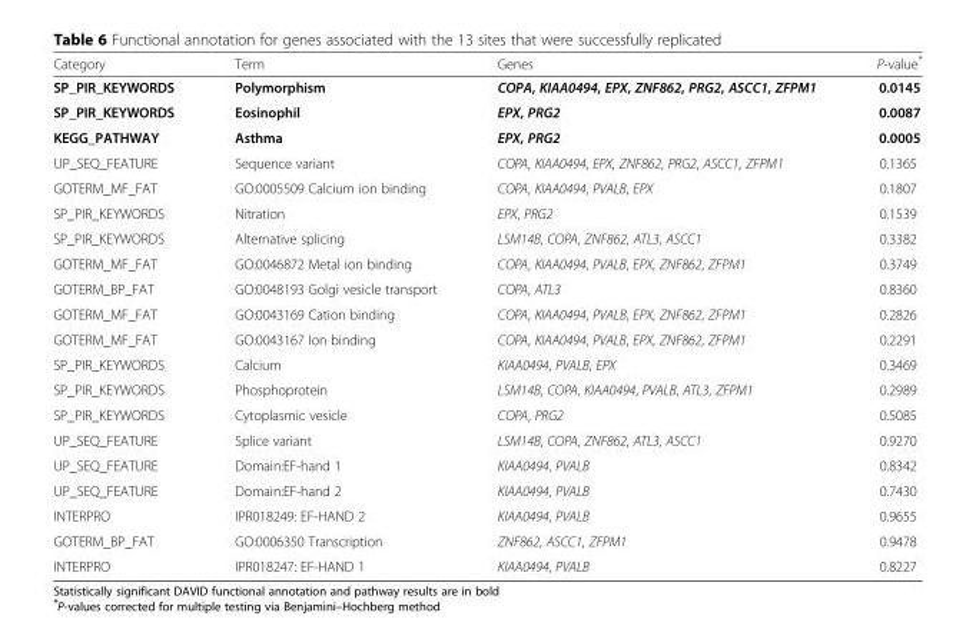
<table><thead><tr><td>Category</td><td>Term</td><td>Genes</td><td>P-value*</td></tr></thead><tbody><tr><td>SP_PIR_KEYWORDS</td><td>Polymorphism</td><td>COPA, KIAA0494, EPX, ZNF862, PRG2, ASCC1, ZFPM1</td><td>0.0145</td></tr><tr><td>SP_PIR_KEYWORDS</td><td>Eosinophil</td><td>EPX, PRG2</td><td>0.0087</td></tr><tr><td>KEGG_PATHWAY</td><td>Asthma</td><td>EPX, PRG2</td><td>0.0005</td></tr><tr><td>UP_SEQ_FEATURE</td><td>Sequence variant</td><td>COPA, KIAA0494, EPX, ZNF862, PRG2, ASCC1, ZFPM1</td><td>0.1365</td></tr><tr><td>GOTERM_MF_FAT</td><td>GO:0005509 Calcium ion binding</td><td>COPA, KIAA0494, PVALB, EPX</td><td>0.1807</td></tr><tr><td>SP_PIR_KEYWORDS</td><td>Nitration</td><td>EPX, PRG2</td><td>0.1539</td></tr><tr><td>SP_PIR_KEYWORDS</td><td>Alternative splicing</td><td>LSM14B, COPA, ZNF862, ATL3, ASCC1</td><td>0.3382</td></tr><tr><td>GOTERM_MF_FAT</td><td>GO:0046872 Metal ion binding</td><td>COPA, KIAA0494, PVALB, EPX, ZNF862, ZFPM1</td><td>0.3749</td></tr><tr><td>GOTERM_BP_FAT</td><td>GO:0048193 Golgi vesicle transport</td><td>COPA, ATL3</td><td>0.8360</td></tr><tr><td>GOTERM_MF_FAT</td><td>GO:0043169 Cation binding</td><td>COPA, KIAA0494, PVALB, EPX, ZNF862, ZFPM1</td><td>0.2826</td></tr><tr><td>GOTERM_MF_FAT</td><td>GO:0043167 Ion binding</td><td>COPA, KIAA0494, PVALB, EPX, ZNF862, ZFPM1</td><td>0.2291</td></tr><tr><td>SP_PIR_KEYWORDS</td><td>Calcium</td><td>KIAA0494, PVALB, EPX</td><td>0.3469</td></tr><tr><td>SP_PIR_KEYWORDS</td><td>Phosphoprotein</td><td>LSM14B, COPA, KIAA0494, PVALB, ATL3, ZFPM1</td><td>0.2989</td></tr><tr><td>SP_PIR_KEYWORDS</td><td>Cytoplasmic vesicle</td><td>COPA, PRG2</td><td>0.5085</td></tr><tr><td>UP_SEQ_FEATURE</td><td>Splice variant</td><td>LSM14B, COPA, ZNF862, ATL3, ASCC1</td><td>0.9270</td></tr><tr><td>UP_SEQ_FEATURE</td><td>Domain:EF-hand 1</td><td>KIAA0494, PVALB</td><td>0.8342</td></tr><tr><td>UP_SEQ_FEATURE</td><td>Domain:EF-hand 2</td><td>KIAA0494, PVALB</td><td>0.7430</td></tr><tr><td>INTERPRO</td><td>IPR018249: EF-HAND 2</td><td>KIAA0494, PVALB</td><td>0.9655</td></tr><tr><td>GOTERM_BP_FAT</td><td>GO:0006350 Transcription</td><td>ZNF862, ASCC1, ZFPM1</td><td>0.9478</td></tr><tr><td>INTERPRO</td><td>IPR018247: EF-HAND 1</td><td>KIAA0494, PVALB</td><td>0.8227</td></tr></tbody></table>